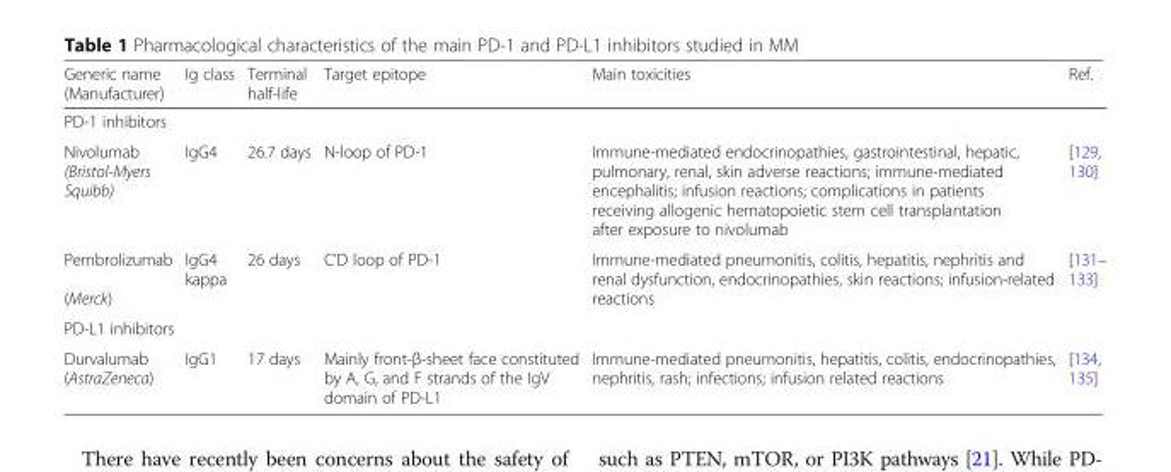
<table><thead><tr><td>Generic name (Manufacturer)</td><td>Ig class</td><td>Terminal half-life</td><td>Target epitope</td><td>Main toxicities</td><td>Ref.</td></tr></thead><tbody><tr><td colspan="6">PD-1 inhibitors</td></tr><tr><td>Nivolumab (Bristol-Myers Squibb)</td><td>IgG4</td><td>26.7 days</td><td>N-loop of PD-1</td><td>Immune-mediated endocrinopathies, gastrointestinal, hepatic, pulmonary, renal, skin adverse reactions; immune-mediated encephalitis; infusion reactions; complications in patients receiving allogenic hematopoietic stem cell transplantation after exposure to nivolumab</td><td>[129, 130]</td></tr><tr><td>Pembrolizumab (Merck)</td><td>IgG4 kappa</td><td>26 days</td><td>C’D loop of PD-1</td><td>Immune-mediated pneumonitis, colitis, hepatitis, nephritis and renal dysfunction, endocrinopathies, skin reactions; infusion-related reactions</td><td>[131– 133]</td></tr><tr><td colspan="6">PD-L1 inhibitors</td></tr><tr><td>Durvalumab (AstraZeneca)</td><td>IgG1</td><td>17 days</td><td>Mainly front-β-sheet face constituted by A, G, and F strands of the IgV domain of PD-L1</td><td>Immune-mediated pneumonitis, hepatitis, colitis, endocrinopathies, nephritis, rash; infections; infusion related reactions</td><td>[134, 135]</td></tr></tbody></table>